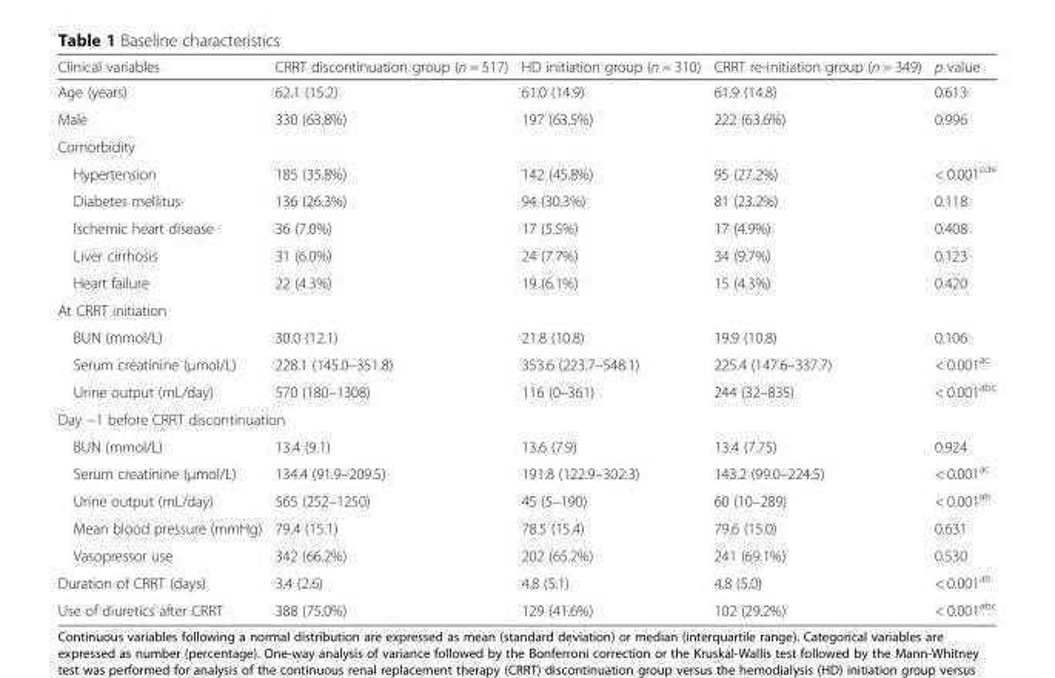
<table><thead><tr><td>Clinical variables</td><td>CRRT discontinuation group (n = 517)</td><td>HD initiation group (n = 310)</td><td>CRRT re-initiation group (n = 349)</td><td>p value</td></tr></thead><tbody><tr><td>Age (years)</td><td>62.1 (15.2)</td><td>61.0 (14.9)</td><td>61.9 (14.8)</td><td>0.613</td></tr><tr><td>Male</td><td>330 (63.8%)</td><td>197 (63.5%)</td><td>222 (63.6%)</td><td>0.996</td></tr><tr><td colspan="5">Comorbidity</td></tr><tr><td>Hypertension</td><td>185 (35.8%)</td><td>142 (45.8%)</td><td>95 (27.2%)</td><td>&lt; 0.001<sup>cde</sup></td></tr><tr><td>Diabetes mellitus</td><td>136 (26.3%)</td><td>94 (30.3%)</td><td>81 (23.2%)</td><td>0.118</td></tr><tr><td>Ischemic heart disease</td><td>36 (7.0%)</td><td>17 (5.5%)</td><td>17 (4.9%)</td><td>0.408</td></tr><tr><td>Liver cirrhosis</td><td>31 (6.0%)</td><td>24 (7.7%)</td><td>34 (9.7%)</td><td>0.123</td></tr><tr><td>Heart failure</td><td>22 (4.3%)</td><td>19 (6.1%)</td><td>15 (4.3%)</td><td>0.420</td></tr><tr><td colspan="5">At CRRT initiation</td></tr><tr><td>BUN (mmol/L)</td><td>30.0 (12.1)</td><td>21.8 (10.8)</td><td>19.9 (10.8)</td><td>0.106</td></tr><tr><td>Serum creatinine (μmol/L)</td><td>228.1 (145.0–351.8)</td><td>353.6 (223.7–548.1)</td><td>225.4 (147.6–337.7)</td><td>&lt; 0.001<sup>ac</sup></td></tr><tr><td>Urine output (mL/day)</td><td>570 (180–1308)</td><td>116 (0–361)</td><td>244 (32–835)</td><td>&lt; 0.001<sup>abc</sup></td></tr><tr><td colspan="5">Day −1 before CRRT discontinuation</td></tr><tr><td>BUN (mmol/L)</td><td>13.4 (9.1)</td><td>13.6 (7.9)</td><td>13.4 (7.75)</td><td>0.924</td></tr><tr><td>Serum creatinine (μmol/L)</td><td>134.4 (91.9–209.5)</td><td>191.8 (122.9–302.3)</td><td>143.2 (99.0–224.5)</td><td>&lt; 0.001<sup>ac</sup></td></tr><tr><td>Urine output (mL/day)</td><td>565 (252–1250)</td><td>45 (5–190)</td><td>60 (10–289)</td><td>&lt; 0.001<sup>ab</sup></td></tr><tr><td>Mean blood pressure (mmHg)</td><td>79.4 (15.1)</td><td>78.5 (15.4)</td><td>79.6 (15.0)</td><td>0.631</td></tr><tr><td>Vasopressor use</td><td>342 (66.2%)</td><td>202 (65.2%)</td><td>241 (69.1%)</td><td>0.530</td></tr><tr><td>Duration of CRRT (days)</td><td>3.4 (2.6)</td><td>4.8 (5.1)</td><td>4.8 (5.0)</td><td>&lt; 0.001<sup>ab</sup></td></tr><tr><td>Use of diuretics after CRRT</td><td>388 (75.0%)</td><td>129 (41.6%)</td><td>102 (29.2%)</td><td>&lt; 0.001<sup>abc</sup></td></tr></tbody></table>